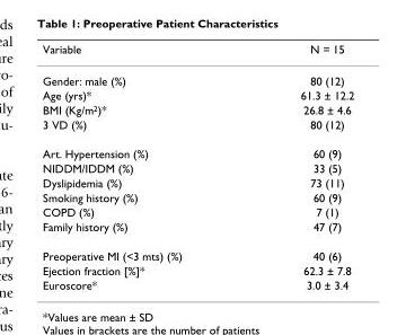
<table><thead><tr><td>Variable</td><td>N = 15</td></tr></thead><tbody><tr><td>Gender: male (%)</td><td>80 (12)</td></tr><tr><td>Age (yrs)*</td><td>61.3 ± 12.2</td></tr><tr><td>BMI (Kg/m<sup>2</sup>)*</td><td>26.8 ± 4.6</td></tr><tr><td>3 VD (%)</td><td>80 (12)</td></tr><tr><td>Art. Hypertension (%)</td><td>60 (9)</td></tr><tr><td>NIDDM/IDDM (%)</td><td>33 (5)</td></tr><tr><td>Dyslipidemia (%)</td><td>73 (11)</td></tr><tr><td>Smoking history (%)</td><td>60 (9)</td></tr><tr><td>COPD (%)</td><td>7 (1)</td></tr><tr><td>Family history (%)</td><td>47 (7)</td></tr><tr><td>Preoperative MI (&lt;3 mts) (%)</td><td>40 (6)</td></tr><tr><td>Ejection fraction [%]*</td><td>62.3 ± 7.8</td></tr><tr><td>Euroscore*</td><td>3.0 ± 3.4</td></tr></tbody></table>